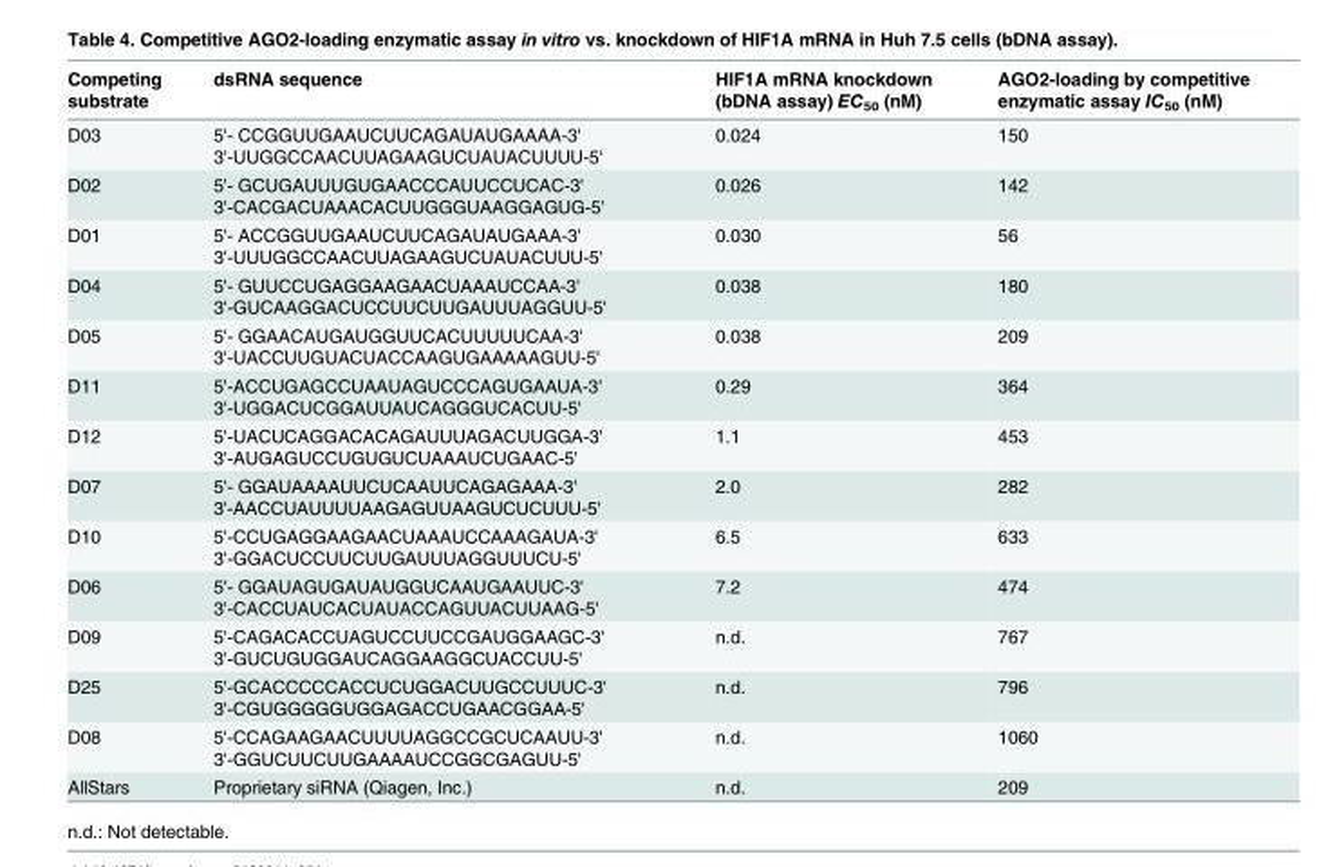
<table><thead><tr><td>Competing substrate</td><td>dsRNA sequence</td><td>HIF1A mRNA knockdown (bDNA assay) EC<sub>50</sub> (nM)</td><td>AGO2-loading by competitive enzymatic assay IC<sub>50</sub> (nM)</td></tr></thead><tbody><tr><td>D03</td><td>5&#x27;- CCGGUUGAAUCUUCAGAUAUGAAAA-3&#x27; 3&#x27;-UUGGCCAACUUAGAAGUCUAUACUUUU-5&#x27;</td><td>0.024</td><td>150</td></tr><tr><td>D02</td><td>5&#x27;- GCUGAUUUGUGAACCCAUUCCUCAC-3&#x27; 3&#x27;-CACGACUAAACACUUGGGUAAGGAGUG-5&#x27;</td><td>0.026</td><td>142</td></tr><tr><td>D01</td><td>5&#x27;- ACCGGUUGAAUCUUCAGAUAUGAAA-3&#x27; 3&#x27;-UUUGGCCAACUUAGAAGUCUAUACUUU-5&#x27;</td><td>0.030</td><td>56</td></tr><tr><td>D04</td><td>5&#x27;- GUUCCUGAGGAAGAACUAAAUCCAA-3&#x27; 3&#x27;-GUCAAGGACUCCUUCUUGAUUUAGGUU-5&#x27;</td><td>0.038</td><td>180</td></tr><tr><td>D05</td><td>5&#x27;- GGAACAUGAUGGUUCACUUUUUCAA-3&#x27; 3&#x27;-UACCUUGUACUACCAAGUGAAAAAGUU-5&#x27;</td><td>0.038</td><td>209</td></tr><tr><td>D11</td><td>5&#x27;-ACCUGAGCCUAAUAGUCCCAGUGAAUA-3&#x27; 3&#x27;-UGGACUCGGAUUAUCAGGGUCACUU-5&#x27;</td><td>0.29</td><td>364</td></tr><tr><td>D12</td><td>5&#x27;-UACUCAGGACACAGAUUUAGACUUGGA-3&#x27; 3&#x27;-AUGAGUCCUGUGUCUAAAUCUGAAC-5&#x27;</td><td>1.1</td><td>453</td></tr><tr><td>D07</td><td>5&#x27;- GGAUAAAAUUCUCAAUUCAGAGAAA-3&#x27; 3&#x27;-AACCUAUUUUAAGAGUUAAGUCUCUUU-5&#x27;</td><td>2.0</td><td>282</td></tr><tr><td>D10</td><td>5&#x27;-CCUGAGGAAGAACUAAAUCCAAAGAUA-3&#x27; 3&#x27;-GGACUCCUUCUUGAUUUAGGUUUCU-5&#x27;</td><td>6.5</td><td>633</td></tr><tr><td>D06</td><td>5&#x27;- GGAUAGUGAUAUGGUCAAUGAAUUC-3&#x27; 3&#x27;-CACCUAUCACUAUACCAGUUACUUAAG-5&#x27;</td><td>7.2</td><td>474</td></tr><tr><td>D09</td><td>5&#x27;-CAGACACCUAGUCCUUCCGAUGGAAGC-3&#x27; 3&#x27;-GUCUGUGGAUCAGGAAGGCUACCUU-5&#x27;</td><td>n.d.</td><td>767</td></tr><tr><td>D25</td><td>5&#x27;-GCACCCCCACCUCUGGACUUGCCUUUC-3&#x27; 3&#x27;-CGUGGGGGUGGAGACCUGAACGGAA-5&#x27;</td><td>n.d.</td><td>796</td></tr><tr><td>D08</td><td>5&#x27;-CCAGAAGAACUUUUAGGCCGCUCAAUU-3&#x27; 3&#x27;-GGUCUUCUUGAAAAUCCGGCGAGUU-5&#x27;</td><td>n.d.</td><td>1060</td></tr><tr><td>AllStars</td><td>Proprietary siRNA (Qiagen, Inc.)</td><td>n.d.</td><td>209</td></tr></tbody></table>